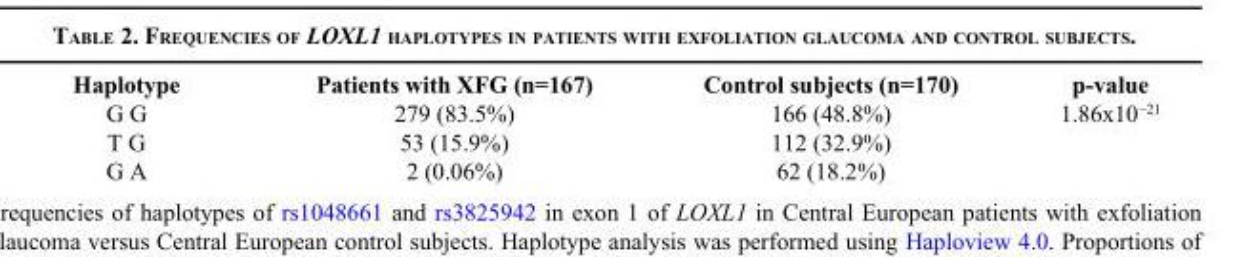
<table><tbody><tr><td>Haplotype</td><td>Patients with XFG (n=167)</td><td>Control subjects (n=170)</td><td>p-value</td></tr><tr><td>G G</td><td>279 (83.5%)</td><td>166 (48.8%)</td><td>1.86x10<sup>−21</sup></td></tr><tr><td>T G</td><td>53 (15.9%)</td><td>112 (32.9%)</td><td></td></tr><tr><td>G A</td><td>2 (0.06%)</td><td>62 (18.2%)</td><td></td></tr></tbody></table>